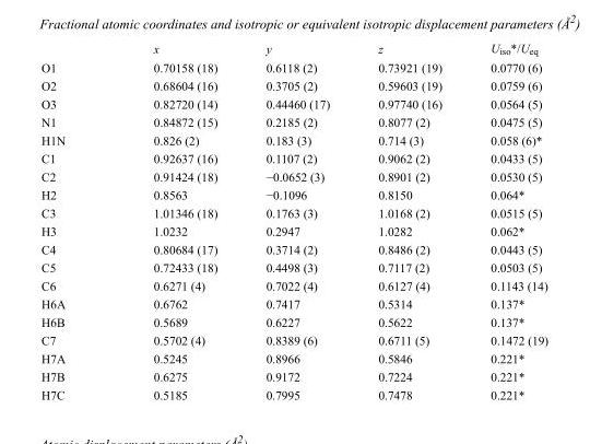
<table><thead><tr><td></td><td>x</td><td>y</td><td>z</td><td>U<sub>iso</sub>*/U<sub>eq</sub></td></tr></thead><tbody><tr><td>O1</td><td>0.70158 (18)</td><td>0.6118 (2)</td><td>0.73921 (19)</td><td>0.0770 (6)</td></tr><tr><td>O2</td><td>0.68604 (16)</td><td>0.3705 (2)</td><td>0.59603 (19)</td><td>0.0759 (6)</td></tr><tr><td>O3</td><td>0.82720 (14)</td><td>0.44460 (17)</td><td>0.97740 (16)</td><td>0.0564 (5)</td></tr><tr><td>N1</td><td>0.84872 (15)</td><td>0.2185 (2)</td><td>0.8077 (2)</td><td>0.0475 (5)</td></tr><tr><td>H1N</td><td>0.826 (2)</td><td>0.183 (3)</td><td>0.714 (3)</td><td>0.058 (6)*</td></tr><tr><td>C1</td><td>0.92637 (16)</td><td>0.1107 (2)</td><td>0.9062 (2)</td><td>0.0433 (5)</td></tr><tr><td>C2</td><td>0.91424 (18)</td><td>−0.0652 (3)</td><td>0.8901 (2)</td><td>0.0530 (5)</td></tr><tr><td>H2</td><td>0.8563</td><td>−0.1096</td><td>0.8150</td><td>0.064*</td></tr><tr><td>C3</td><td>1.01346 (18)</td><td>0.1763 (3)</td><td>1.0168 (2)</td><td>0.0515 (5)</td></tr><tr><td>H3</td><td>1.0232</td><td>0.2947</td><td>1.0282</td><td>0.062*</td></tr><tr><td>C4</td><td>0.80684 (17)</td><td>0.3714 (2)</td><td>0.8486 (2)</td><td>0.0443 (5)</td></tr><tr><td>C5</td><td>0.72433 (18)</td><td>0.4498 (3)</td><td>0.7117 (2)</td><td>0.0503 (5)</td></tr><tr><td>C6</td><td>0.6271 (4)</td><td>0.7022 (4)</td><td>0.6127 (4)</td><td>0.1143 (14)</td></tr><tr><td>H6A</td><td>0.6762</td><td>0.7417</td><td>0.5314</td><td>0.137*</td></tr><tr><td>H6B</td><td>0.5689</td><td>0.6227</td><td>0.5622</td><td>0.137*</td></tr><tr><td>C7</td><td>0.5702 (4)</td><td>0.8389 (6)</td><td>0.6711 (5)</td><td>0.1472 (19)</td></tr><tr><td>H7A</td><td>0.5245</td><td>0.8966</td><td>0.5846</td><td>0.221*</td></tr><tr><td>H7B</td><td>0.6275</td><td>0.9172</td><td>0.7224</td><td>0.221*</td></tr><tr><td>H7C</td><td>0.5185</td><td>0.7995</td><td>0.7478</td><td>0.221*</td></tr></tbody></table>